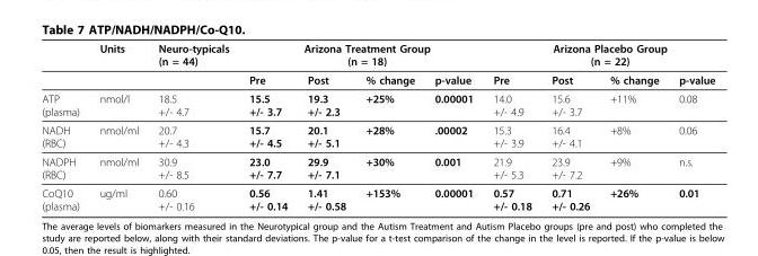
<table><thead><tr><td rowspan="2"></td><td rowspan="2">Units</td><td rowspan="2">Neuro-typicals (n = 44)</td><td colspan="4">Arizona Treatment Group (n = 18)</td><td colspan="4">Arizona Placebo Group (n = 22)</td></tr><tr><td>Pre</td><td>Post</td><td>% change</td><td>p-value</td><td>Pre</td><td>Post</td><td>% change</td><td>p-value</td></tr></thead><tbody><tr><td>ATP (plasma)</td><td>nmol/l</td><td>18.5 +/- 4.7</td><td>15.5 +/- 3.7</td><td>19.3 +/- 2.3</td><td>+25%</td><td>0.00001</td><td>14.0 +/- 4.9</td><td>15.6 +/- 3.7</td><td>+11%</td><td>0.08</td></tr><tr><td>NADH (RBC)</td><td>nmol/ml</td><td>20.7 +/- 4.3</td><td>15.7 +/- 4.5</td><td>20.1 +/- 5.1</td><td>+28%</td><td>.00002</td><td>15.3 +/- 3.9</td><td>16.4 +/- 4.1</td><td>+8%</td><td>0.06</td></tr><tr><td>NADPH (RBC)</td><td>nmol/ml</td><td>30.9 +/- 8.5</td><td>23.0 +/- 7.7</td><td>29.9 +/- 7.1</td><td>+30%</td><td>0.001</td><td>21.9 +/- 5.3</td><td>23.9 +/- 7.2</td><td>+9%</td><td>n.s.</td></tr><tr><td>CoQ10 (plasma)</td><td>ug/ml</td><td>0.60 +/- 0.16</td><td>0.56 +/- 0.14</td><td>1.41 +/- 0.58</td><td>+153%</td><td>0.00001</td><td>0.57 +/- 0.18</td><td>0.71 +/- 0.26</td><td>+26%</td><td>0.01</td></tr></tbody></table>